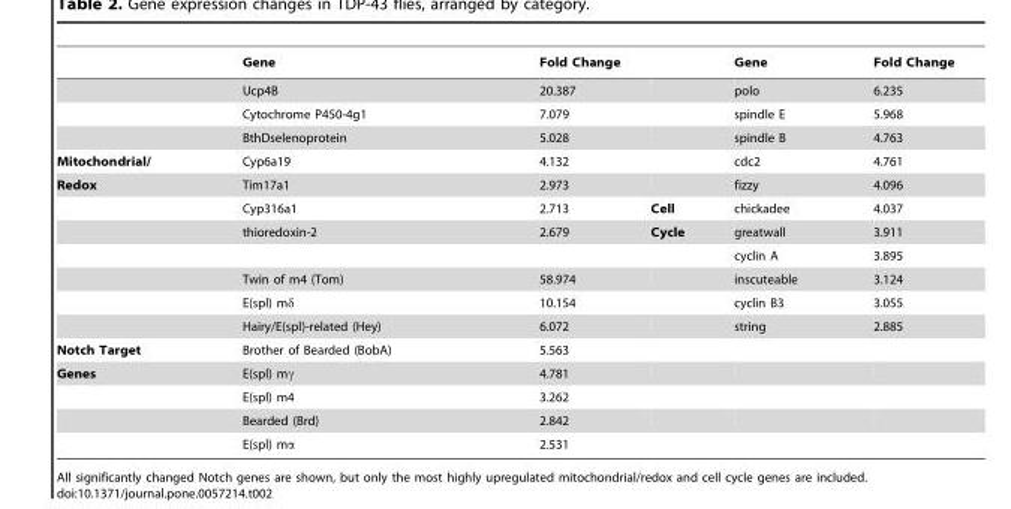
<table><thead><tr><td></td><td>Gene</td><td>Fold Change</td><td></td><td>Gene</td><td>Fold Change</td></tr></thead><tbody><tr><td></td><td>Ucp4B</td><td>20.387</td><td></td><td>polo</td><td>6.235</td></tr><tr><td></td><td>Cytochrome P450-4g1</td><td>7.079</td><td></td><td>spindle E</td><td>5.968</td></tr><tr><td></td><td>BthDselenoprotein</td><td>5.028</td><td></td><td>spindle B</td><td>4.763</td></tr><tr><td>Mitochondrial/</td><td>Cyp6a19</td><td>4.132</td><td></td><td>cdc2</td><td>4.761</td></tr><tr><td rowspan="7">Redox</td><td>Tim17a1</td><td>2.973</td><td></td><td>fizzy</td><td>4.096</td></tr><tr><td>Cyp316a1</td><td>2.713</td><td>Cell</td><td>chickadee</td><td>4.037</td></tr><tr><td>thioredoxin-2</td><td>2.679</td><td>Cycle</td><td>greatwall</td><td>3.911</td></tr><tr><td></td><td></td><td></td><td>cyclin A</td><td>3.895</td></tr><tr><td>Twin of m4 (Tom)</td><td>58.974</td><td></td><td>inscuteable</td><td>3.124</td></tr><tr><td>E(spl) mδ</td><td>10.154</td><td></td><td>cyclin B3</td><td>3.055</td></tr><tr><td>Hairy/E(spl)-related (Hey)</td><td>6.072</td><td></td><td>string</td><td>2.885</td></tr><tr><td>Notch Target</td><td>Brother of Bearded (BobA)</td><td>5.563</td><td></td><td></td><td></td></tr><tr><td rowspan="4">Genes</td><td>E(spl) mγ</td><td>4.781</td><td></td><td></td><td></td></tr><tr><td>E(spl) m4</td><td>3.262</td><td></td><td></td><td></td></tr><tr><td>Bearded (Brd)</td><td>2.842</td><td></td><td></td><td></td></tr><tr><td>E(spl) mα</td><td>2.531</td><td></td><td></td><td></td></tr></tbody></table>